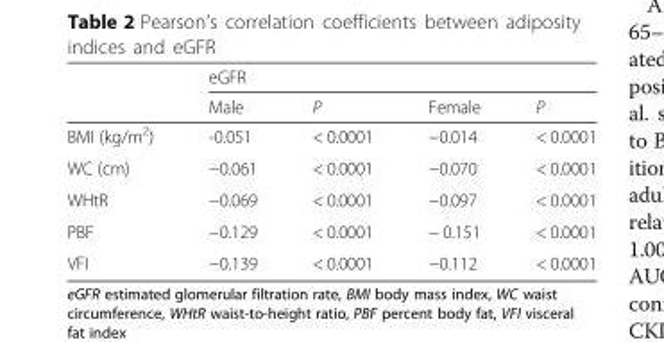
<table><thead><tr><td rowspan="2"></td><td colspan="4">eGFR</td></tr><tr><td>Male</td><td>P</td><td>Female</td><td>P</td></tr></thead><tbody><tr><td>BMI (kg/m<sup>2</sup>)</td><td>-0.051</td><td>&lt; 0.0001</td><td>−0.014</td><td>&lt; 0.0001</td></tr><tr><td>WC (cm)</td><td>−0.061</td><td>&lt; 0.0001</td><td>−0.070</td><td>&lt; 0.0001</td></tr><tr><td>WHtR</td><td>−0.069</td><td>&lt; 0.0001</td><td>−0.097</td><td>&lt; 0.0001</td></tr><tr><td>PBF</td><td>−0.129</td><td>&lt; 0.0001</td><td>− 0.151</td><td>&lt; 0.0001</td></tr><tr><td>VFI</td><td>−0.139</td><td>&lt; 0.0001</td><td>−0.112</td><td>&lt; 0.0001</td></tr></tbody></table>